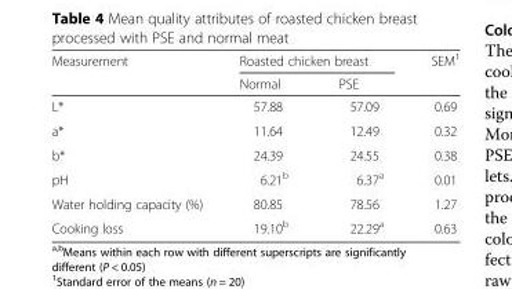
<table><thead><tr><td rowspan="2">Measurement</td><td colspan="2">Roasted chicken breast</td><td rowspan="2">SEM<sup>1</sup></td></tr><tr><td>Normal</td><td>PSE</td></tr></thead><tbody><tr><td>L*</td><td>57.88</td><td>57.09</td><td>0.69</td></tr><tr><td>a*</td><td>11.64</td><td>12.49</td><td>0.32</td></tr><tr><td>b*</td><td>24.39</td><td>24.55</td><td>0.38</td></tr><tr><td>pH</td><td>6.21<sup>b</sup></td><td>6.37<sup>a</sup></td><td>0.01</td></tr><tr><td>Water holding capacity (%)</td><td>80.85</td><td>78.56</td><td>1.27</td></tr><tr><td>Cooking loss</td><td>19.10<sup>b</sup></td><td>22.29<sup>a</sup></td><td>0.63</td></tr></tbody></table>